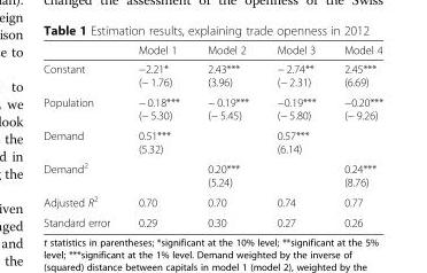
<table><thead><tr><td></td><td>Model 1</td><td>Model 2</td><td>Model 3</td><td>Model 4</td></tr></thead><tbody><tr><td>Constant</td><td>−2.21* (− 1.76)</td><td>2.43*** (3.96)</td><td>− 2.74** (− 2.31)</td><td>2.45*** (6.69)</td></tr><tr><td>Population</td><td>− 0.18*** (− 5.30)</td><td>− 0.19*** (− 5.45)</td><td>−0.19*** (− 5.80)</td><td>−0.20*** (− 9.26)</td></tr><tr><td>Demand</td><td>0.51*** (5.32)</td><td></td><td>0.57*** (6.14)</td><td></td></tr><tr><td>Demand<sup>2</sup></td><td></td><td>0.20*** (5.24)</td><td></td><td>0.24*** (8.76)</td></tr><tr><td>Adjusted R<sup>2</sup></td><td>0.70</td><td>0.70</td><td>0.74</td><td>0.77</td></tr><tr><td>Standard error</td><td>0.29</td><td>0.30</td><td>0.27</td><td>0.26</td></tr></tbody></table>